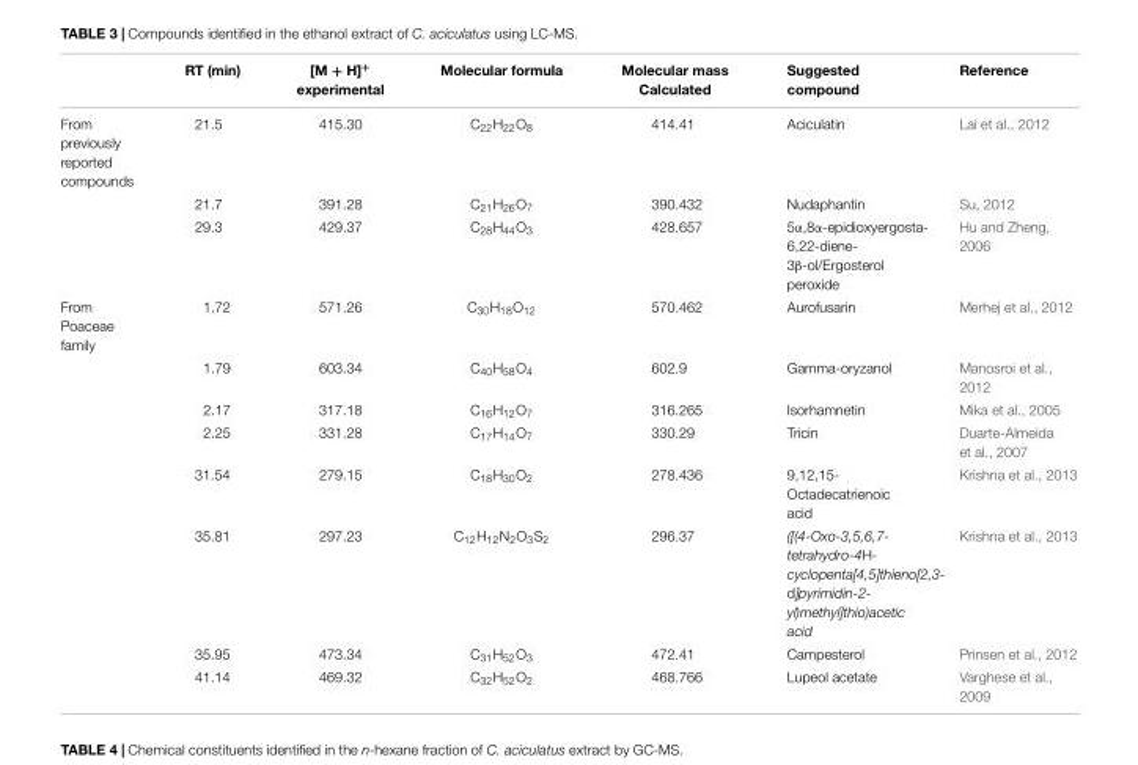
<table><thead><tr><td></td><td>RT (min)</td><td>[M + H]<sup>+</sup> experimental</td><td>Molecular formula</td><td>Molecular mass Calculated</td><td>Suggested compound</td><td>Reference</td></tr></thead><tbody><tr><td rowspan="3">From previously reported compounds</td><td>21.5</td><td>415.30</td><td>C<sub>22</sub>H<sub>22</sub>O<sub>8</sub></td><td>414.41</td><td>Aciculatin</td><td>Lai et al., 2012</td></tr><tr><td>21.7</td><td>391.28</td><td>C<sub>21</sub>H<sub>26</sub>O<sub>7</sub></td><td>390.432</td><td>Nudaphantin</td><td>Su, 2012</td></tr><tr><td>29.3</td><td>429.37</td><td>C<sub>28</sub>H<sub>44</sub>O<sub>3</sub></td><td>428.657</td><td>5α,8α-epidioxyergosta- 6,22-diene- 3β-ol/Ergosterol peroxide</td><td>Hu and Zheng, 2006</td></tr><tr><td rowspan="8">From Poaceae family</td><td>1.72</td><td>571.26</td><td>C<sub>30</sub>H<sub>18</sub>O<sub>12</sub></td><td>570.462</td><td>Aurofusarin</td><td>Merhej et al., 2012</td></tr><tr><td>1.79</td><td>603.34</td><td>C<sub>40</sub>H<sub>58</sub>O<sub>4</sub></td><td>602.9</td><td>Gamma-oryzanol</td><td>Manosroi et al., 2012</td></tr><tr><td>2.17</td><td>317.18</td><td>C<sub>16</sub>H<sub>12</sub>O<sub>7</sub></td><td>316.265</td><td>Isorhamnetin</td><td>Mika et al., 2005</td></tr><tr><td>2.25</td><td>331.28</td><td>C<sub>17</sub>H<sub>14</sub>O<sub>7</sub></td><td>330.29</td><td>Tricin</td><td>Duarte-Almeida et al., 2007</td></tr><tr><td>31.54</td><td>279.15</td><td>C<sub>18</sub>H<sub>30</sub>O<sub>2</sub></td><td>278.436</td><td>9,12,15- Octadecatrienoic acid</td><td>Krishna et al., 2013</td></tr><tr><td>35.81</td><td>297.23</td><td>C<sub>12</sub>H<sub>12</sub>N<sub>2</sub>O<sub>3</sub>S<sub>2</sub></td><td>296.37</td><td>([(4-Oxo-3,5,6,7- tetrahydro-4H- cyclopenta[4,5]thieno[2,3- d]pyrimidin-2- yl)methyl]thio)acetic acid</td><td>Krishna et al., 2013</td></tr><tr><td>35.95</td><td>473.34</td><td>C<sub>31</sub>H<sub>52</sub>O<sub>3</sub></td><td>472.41</td><td>Campesterol</td><td>Prinsen et al., 2012</td></tr><tr><td>41.14</td><td>469.32</td><td>C<sub>32</sub>H<sub>52</sub>O<sub>2</sub></td><td>468.766</td><td>Lupeol acetate</td><td>Varghese et al., 2009</td></tr></tbody></table>